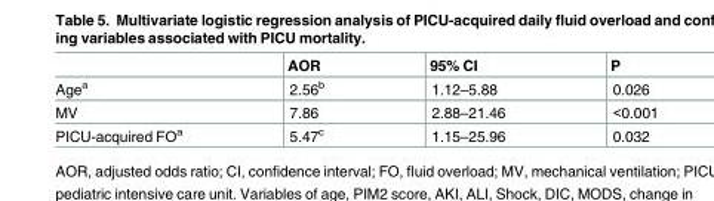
<table><thead><tr><td></td><td>AOR</td><td>95% CI</td><td>P</td></tr></thead><tbody><tr><td>Age<sup>a</sup></td><td>2.56<sup>b</sup></td><td>1.12–5.88</td><td>0.026</td></tr><tr><td>MV</td><td>7.86</td><td>2.88–21.46</td><td>&lt;0.001</td></tr><tr><td>PICU-acquired FO<sup>a</sup></td><td>5.47<sup>c</sup></td><td>1.15–25.96</td><td>0.032</td></tr></tbody></table>